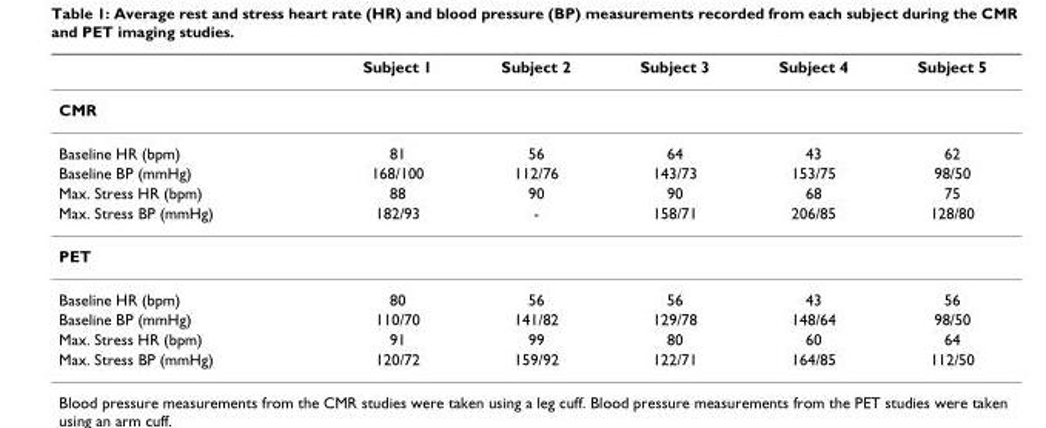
<table><thead><tr><td></td><td>Subject 1</td><td>Subject 2</td><td>Subject 3</td><td>Subject 4</td><td>Subject 5</td></tr></thead><tbody><tr><td colspan="6">CMR</td></tr><tr><td>Baseline HR (bpm)</td><td>81</td><td>56</td><td>64</td><td>43</td><td>62</td></tr><tr><td>Baseline BP (mmHg)</td><td>168/100</td><td>112/76</td><td>143/73</td><td>153/75</td><td>98/50</td></tr><tr><td>Max. Stress HR (bpm)</td><td>88</td><td>90</td><td>90</td><td>68</td><td>75</td></tr><tr><td>Max. Stress BP (mmHg)</td><td>182/93</td><td>-</td><td>158/71</td><td>206/85</td><td>128/80</td></tr><tr><td colspan="6">PET</td></tr><tr><td>Baseline HR (bpm)</td><td>80</td><td>56</td><td>56</td><td>43</td><td>56</td></tr><tr><td>Baseline BP (mmHg)</td><td>110/70</td><td>141/82</td><td>129/78</td><td>148/64</td><td>98/50</td></tr><tr><td>Max. Stress HR (bpm)</td><td>91</td><td>99</td><td>80</td><td>60</td><td>64</td></tr><tr><td>Max. Stress BP (mmHg)</td><td>120/72</td><td>159/92</td><td>122/71</td><td>164/85</td><td>112/50</td></tr></tbody></table>